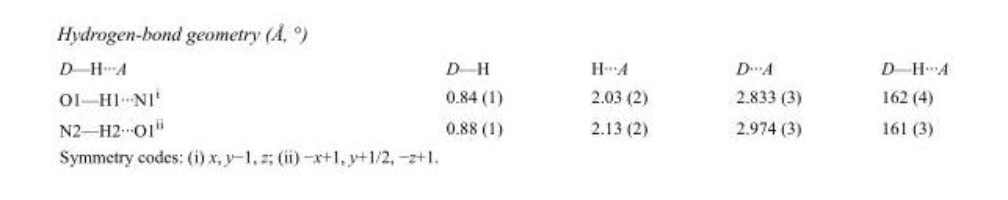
<table><tbody><tr><td>D—H···A</td><td>D—H</td><td>H···A</td><td>D···A</td><td>D—H···A</td></tr><tr><td>O1—H1···N1<sup>i</sup></td><td>0.84 (1)</td><td>2.03 (2)</td><td>2.833 (3)</td><td>162 (4)</td></tr><tr><td>N2—H2···O1<sup>ii</sup></td><td>0.88 (1)</td><td>2.13 (2)</td><td>2.974 (3)</td><td>161 (3)</td></tr></tbody></table>